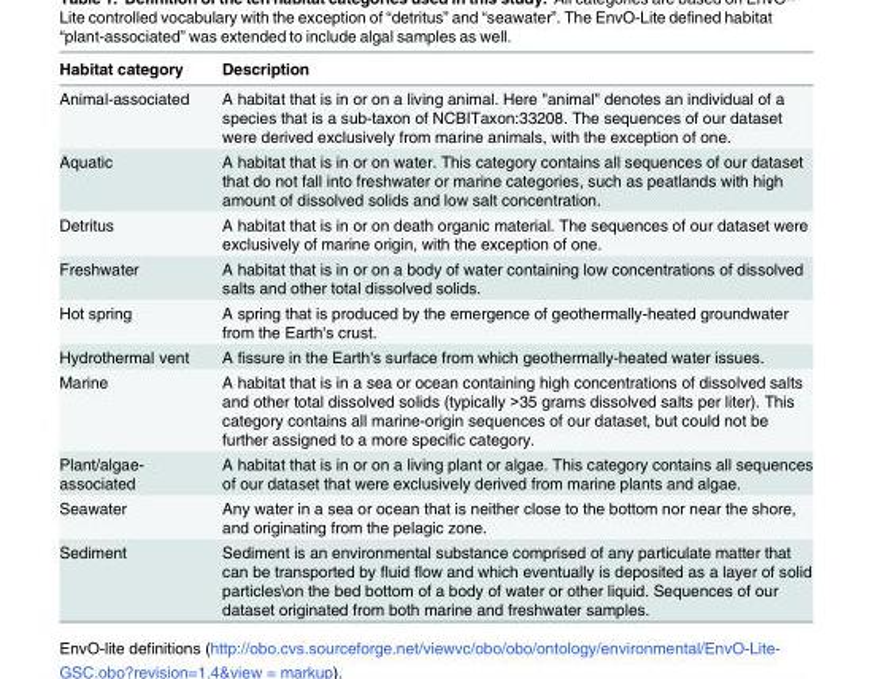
<table><thead><tr><td>Habitat category</td><td>Description</td></tr></thead><tbody><tr><td>Animal-associated</td><td>A habitat that is in or on a living animal. Here &quot;animal&quot; denotes an individual of a species that is a sub-taxon of NCBITaxon:33208. The sequences of our dataset were derived exclusively from marine animals, with the exception of one.</td></tr><tr><td>Aquatic</td><td>A habitat that is in or on water. This category contains all sequences of our dataset that do not fall into freshwater or marine categories, such as peatlands with high amount of dissolved solids and low salt concentration.</td></tr><tr><td>Detritus</td><td>A habitat that is in or on death organic material. The sequences of our dataset were exclusively of marine origin, with the exception of one.</td></tr><tr><td>Freshwater</td><td>A habitat that is in or on a body of water containing low concentrations of dissolved salts and other total dissolved solids.</td></tr><tr><td>Hot spring</td><td>A spring that is produced by the emergence of geothermally-heated groundwater from the Earth&#x27;s crust.</td></tr><tr><td>Hydrothermal vent</td><td>A fissure in the Earth&#x27;s surface from which geothermally-heated water issues.</td></tr><tr><td>Marine</td><td>A habitat that is in a sea or ocean containing high concentrations of dissolved salts and other total dissolved solids (typically &gt;35 grams dissolved salts per liter). This category contains all marine-origin sequences of our dataset, but could not be further assigned to a more specific category.</td></tr><tr><td>Plant/algae- associated</td><td>A habitat that is in or on a living plant or algae. This category contains all sequences of our dataset that were exclusively derived from marine plants and algae.</td></tr><tr><td>Seawater</td><td>Any water in a sea or ocean that is neither close to the bottom nor near the shore, and originating from the pelagic zone.</td></tr><tr><td>Sediment</td><td>Sediment is an environmental substance comprised of any particulate matter that can be transported by fluid flow and which eventually is deposited as a layer of solid particles\on the bed bottom of a body of water or other liquid. Sequences of our dataset originated from both marine and freshwater samples.</td></tr></tbody></table>